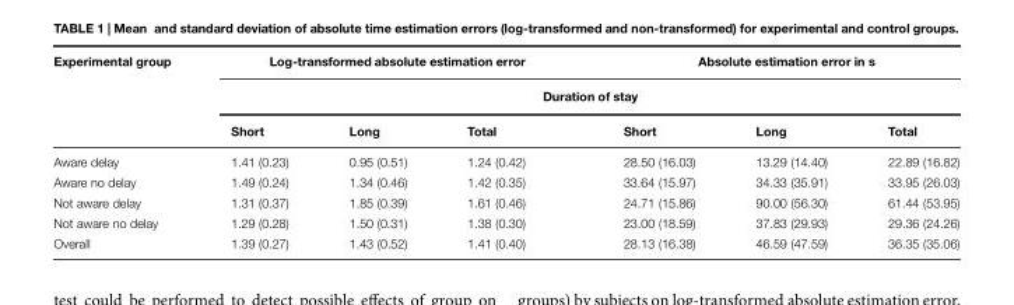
<table><thead><tr><td rowspan="3">Experimental group</td><td colspan="3">Log-transformed absolute estimation error</td><td colspan="3">Absolute estimation error in s</td></tr><tr><td colspan="6">Duration of stay</td></tr><tr><td>Short</td><td>Long</td><td>Total</td><td>Short</td><td>Long</td><td>Total</td></tr></thead><tbody><tr><td>Aware delay</td><td>1.41 (0.23)</td><td>0.95 (0.51)</td><td>1.24 (0.42)</td><td>28.50 (16.03)</td><td>13.29 (14.40)</td><td>22.89 (16.82)</td></tr><tr><td>Aware no delay</td><td>1.49 (0.24)</td><td>1.34 (0.46)</td><td>1.42 (0.35)</td><td>33.64 (15.97)</td><td>34.33 (35.91)</td><td>33.95 (26.03)</td></tr><tr><td>Not aware delay</td><td>1.31 (0.37)</td><td>1.85 (0.39)</td><td>1.61 (0.46)</td><td>24.71 (15.86)</td><td>90.00 (56.30)</td><td>61.44 (53.95)</td></tr><tr><td>Not aware no delay</td><td>1.29 (0.28)</td><td>1.50 (0.31)</td><td>1.38 (0.30)</td><td>23.00 (18.59)</td><td>37.83 (29.93)</td><td>29.36 (24.26)</td></tr><tr><td>Overall</td><td>1.39 (0.27)</td><td>1.43 (0.52)</td><td>1.41 (0.40)</td><td>28.13 (16.38)</td><td>46.59 (47.59)</td><td>36.35 (35.06)</td></tr></tbody></table>